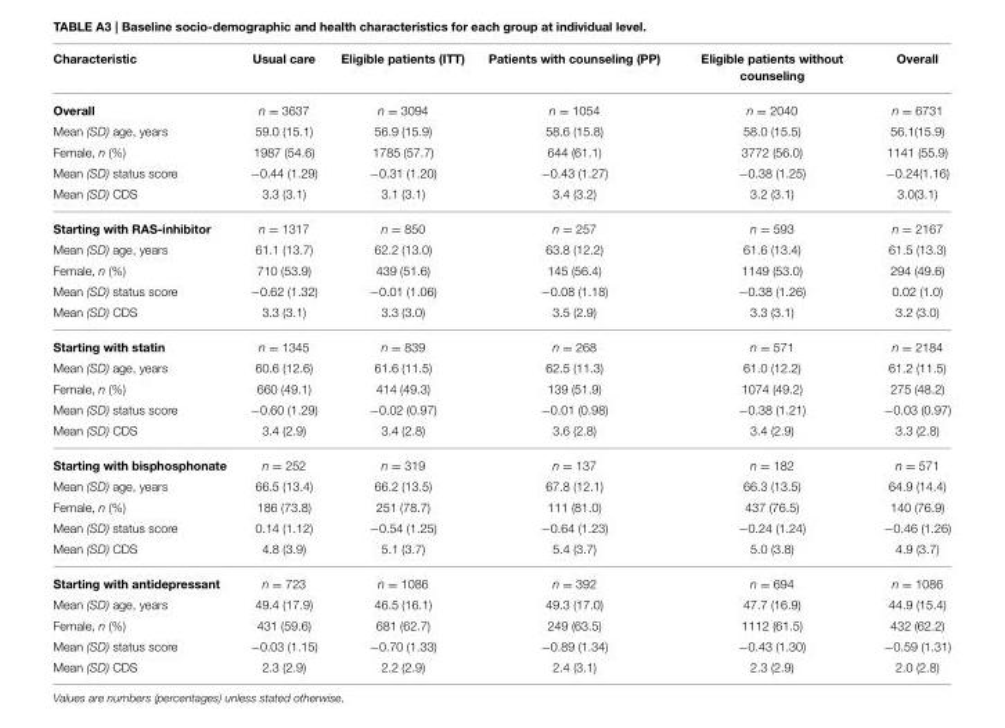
<table><thead><tr><td>Characteristic</td><td>Usual care</td><td>Eligible patients (ITT)</td><td>Patients with counseling (PP)</td><td>Eligible patients without counseling</td><td>Overall</td></tr></thead><tbody><tr><td>Overall</td><td>n = 3637</td><td>n = 3094</td><td>n = 1054</td><td>n = 2040</td><td>n = 6731</td></tr><tr><td>Mean (SD) age, years</td><td>59.0 (15.1)</td><td>56.9 (15.9)</td><td>58.6 (15.8)</td><td>58.0 (15.5)</td><td>56.1(15.9)</td></tr><tr><td>Female, n (%)</td><td>1987 (54.6)</td><td>1785 (57.7)</td><td>644 (61.1)</td><td>3772 (56.0)</td><td>1141 (55.9)</td></tr><tr><td>Mean (SD) status score</td><td>−0.44 (1.29)</td><td>−0.31 (1.20)</td><td>−0.43 (1.27)</td><td>−0.38 (1.25)</td><td>−0.24(1.16)</td></tr><tr><td>Mean (SD) CDS</td><td>3.3 (3.1)</td><td>3.1 (3.1)</td><td>3.4 (3.2)</td><td>3.2 (3.1)</td><td>3.0(3.1)</td></tr><tr><td>Starting with RAS-inhibitor</td><td>n = 1317</td><td>n = 850</td><td>n = 257</td><td>n = 593</td><td>n = 2167</td></tr><tr><td>Mean (SD) age, years</td><td>61.1 (13.7)</td><td>62.2 (13.0)</td><td>63.8 (12.2)</td><td>61.6 (13.4)</td><td>61.5 (13.3)</td></tr><tr><td>Female, n (%)</td><td>710 (53.9)</td><td>439 (51.6)</td><td>145 (56.4)</td><td>1149 (53.0)</td><td>294 (49.6)</td></tr><tr><td>Mean (SD) status score</td><td>−0.62 (1.32)</td><td>−0.01 (1.06)</td><td>−0.08 (1.18)</td><td>−0.38 (1.26)</td><td>0.02 (1.0)</td></tr><tr><td>Mean (SD) CDS</td><td>3.3 (3.1)</td><td>3.3 (3.0)</td><td>3.5 (2.9)</td><td>3.3 (3.1)</td><td>3.2 (3.0)</td></tr><tr><td>Starting with statin</td><td>n = 1345</td><td>n = 839</td><td>n = 268</td><td>n = 571</td><td>n = 2184</td></tr><tr><td>Mean (SD) age, years</td><td>60.6 (12.6)</td><td>61.6 (11.5)</td><td>62.5 (11.3)</td><td>61.0 (12.2)</td><td>61.2 (11.5)</td></tr><tr><td>Female, n (%)</td><td>660 (49.1)</td><td>414 (49.3)</td><td>139 (51.9)</td><td>1074 (49.2)</td><td>275 (48.2)</td></tr><tr><td>Mean (SD) status score</td><td>−0.60 (1.29)</td><td>−0.02 (0.97)</td><td>−0.01 (0.98)</td><td>−0.38 (1.21)</td><td>−0.03 (0.97)</td></tr><tr><td>Mean (SD) CDS</td><td>3.4 (2.9)</td><td>3.4 (2.8)</td><td>3.6 (2.8)</td><td>3.4 (2.9)</td><td>3.3 (2.8)</td></tr><tr><td>Starting with bisphosphonate</td><td>n = 252</td><td>n = 319</td><td>n = 137</td><td>n = 182</td><td>n = 571</td></tr><tr><td>Mean (SD) age, years</td><td>66.5 (13.4)</td><td>66.2 (13.5)</td><td>67.8 (12.1)</td><td>66.3 (13.5)</td><td>64.9 (14.4)</td></tr><tr><td>Female, n (%)</td><td>186 (73.8)</td><td>251 (78.7)</td><td>111 (81.0)</td><td>437 (76.5)</td><td>140 (76.9)</td></tr><tr><td>Mean (SD) status score</td><td>0.14 (1.12)</td><td>−0.54 (1.25)</td><td>−0.64 (1.23)</td><td>−0.24 (1.24)</td><td>−0.46 (1.26)</td></tr><tr><td>Mean (SD) CDS</td><td>4.8 (3.9)</td><td>5.1 (3.7)</td><td>5.4 (3.7)</td><td>5.0 (3.8)</td><td>4.9 (3.7)</td></tr><tr><td>Starting with antidepressant</td><td>n = 723</td><td>n = 1086</td><td>n = 392</td><td>n = 694</td><td>n = 1086</td></tr><tr><td>Mean (SD) age, years</td><td>49.4 (17.9)</td><td>46.5 (16.1)</td><td>49.3 (17.0)</td><td>47.7 (16.9)</td><td>44.9 (15.4)</td></tr><tr><td>Female, n (%)</td><td>431 (59.6)</td><td>681 (62.7)</td><td>249 (63.5)</td><td>1112 (61.5)</td><td>432 (62.2)</td></tr><tr><td>Mean (SD) status score</td><td>−0.03 (1.15)</td><td>−0.70 (1.33)</td><td>−0.89 (1.34)</td><td>−0.43 (1.30)</td><td>−0.59 (1.31)</td></tr><tr><td>Mean (SD) CDS</td><td>2.3 (2.9)</td><td>2.2 (2.9)</td><td>2.4 (3.1)</td><td>2.3 (2.9)</td><td>2.0 (2.8)</td></tr></tbody></table>